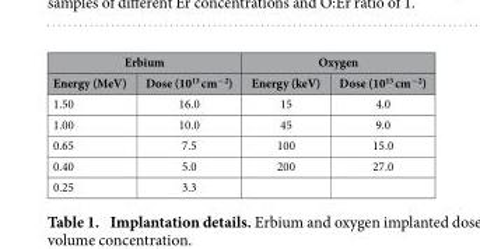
<table><thead><tr><td colspan="2">Erbium</td><td colspan="2">Oxygen</td></tr><tr><td>Energy (MeV)</td><td>Dose (10<sup>13</sup> cm<sup>−2</sup>)</td><td>Energy (keV)</td><td>Dose (10<sup>13</sup> cm<sup>−2</sup>)</td></tr></thead><tbody><tr><td>1.50</td><td>16.0</td><td>15</td><td>4.0</td></tr><tr><td>1.00</td><td>10.0</td><td>45</td><td>9.0</td></tr><tr><td>0.65</td><td>7.5</td><td>100</td><td>15.0</td></tr><tr><td>0.40</td><td>5.0</td><td>200</td><td>27.0</td></tr><tr><td>0.25</td><td>3.3</td><td></td><td></td></tr></tbody></table>